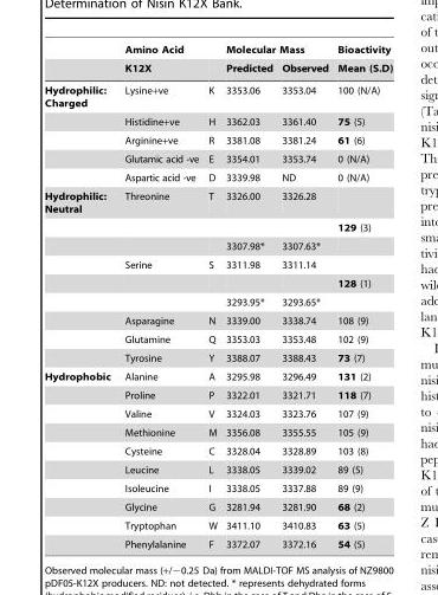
<table><thead><tr><td rowspan="2"></td><td rowspan="2">Amino Acid K12X</td><td rowspan="2"></td><td colspan="2">Molecular Mass</td><td rowspan="2">Bioactivity Mean (S.D)</td></tr><tr><td>Predicted</td><td>Observed</td></tr></thead><tbody><tr><td rowspan="5">Hydrophilic: Charged</td><td>Lysine+ve</td><td>K</td><td>3353.06</td><td>3353.04</td><td>100 (N/A)</td></tr><tr><td>Histidine+ve</td><td>H</td><td>3362.03</td><td>3361.40</td><td>75 (5)</td></tr><tr><td>Arginine+ve</td><td>R</td><td>3381.08</td><td>3381.24</td><td>61 (6)</td></tr><tr><td>Glutamic acid -ve</td><td>E</td><td>3354.01</td><td>3353.74</td><td>0 (N/A)</td></tr><tr><td>Aspartic acid -ve</td><td>D</td><td>3339.98</td><td>ND</td><td>0 (N/A)</td></tr><tr><td rowspan="9">Hydrophilic: Neutral</td><td>Threonine</td><td>T</td><td>3326.00</td><td>3326.28</td><td></td></tr><tr><td></td><td></td><td></td><td></td><td>129 (3)</td></tr><tr><td></td><td></td><td>3307.98*</td><td>3307.63*</td><td></td></tr><tr><td>Serine</td><td>S</td><td>3311.98</td><td>3311.14</td><td></td></tr><tr><td></td><td></td><td></td><td></td><td>128 (1)</td></tr><tr><td></td><td></td><td>3293.95*</td><td>3293.65*</td><td></td></tr><tr><td>Asparagine</td><td>N</td><td>3339.00</td><td>3338.74</td><td>108 (9)</td></tr><tr><td>Glutamine</td><td>Q</td><td>3353.03</td><td>3353.48</td><td>102 (9)</td></tr><tr><td>Tyrosine</td><td>Y</td><td>3388.07</td><td>3388.43</td><td>73 (7)</td></tr><tr><td rowspan="10">Hydrophobic</td><td>Alanine</td><td>A</td><td>3295.98</td><td>3296.49</td><td>131 (2)</td></tr><tr><td>Proline</td><td>P</td><td>3322.01</td><td>3321.71</td><td>118 (7)</td></tr><tr><td>Valine</td><td>V</td><td>3324.03</td><td>3323.76</td><td>107 (9)</td></tr><tr><td>Methionine</td><td>M</td><td>3356.08</td><td>3355.55</td><td>105 (9)</td></tr><tr><td>Cysteine</td><td>C</td><td>3328.04</td><td>3328.89</td><td>103 (8)</td></tr><tr><td>Leucine</td><td>L</td><td>3338.05</td><td>3339.02</td><td>89 (5)</td></tr><tr><td>Isoleucine</td><td>I</td><td>3338.05</td><td>3337.88</td><td>89 (9)</td></tr><tr><td>Glycine</td><td>G</td><td>3281.94</td><td>3281.90</td><td>68 (2)</td></tr><tr><td>Tryptophan</td><td>W</td><td>3411.10</td><td>3410.83</td><td>63 (5)</td></tr><tr><td>Phenylalanine</td><td>F</td><td>3372.07</td><td>3372.16</td><td>54 (5)</td></tr></tbody></table>